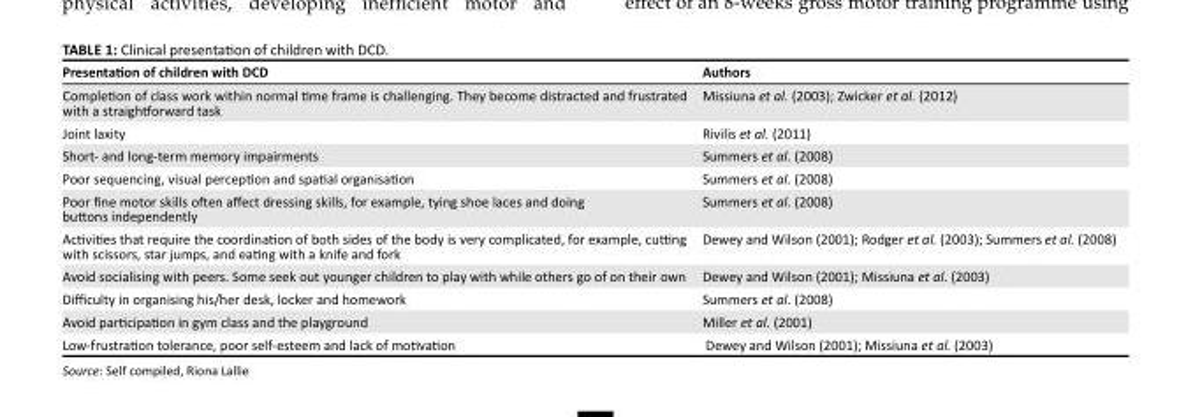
<table><thead><tr><td>Presentation of children with DCD</td><td>Authors</td></tr></thead><tbody><tr><td>Completion of class work within normal time frame is challenging. They become distracted and frustrated with a straightforward task</td><td>Missiuna et al. (2003); Zwicker et al. (2012)</td></tr><tr><td>Joint laxity</td><td>Rivilis et al. (2011)</td></tr><tr><td>Short- and long-term memory impairments</td><td>Summers et al. (2008)</td></tr><tr><td>Poor sequencing, visual perception and spatial organisation</td><td>Summers et al. (2008)</td></tr><tr><td>Poor fine motor skills often affect dressing skills, for example, tying shoe laces and doing buttons independently</td><td>Summers et al. (2008)</td></tr><tr><td>Activities that require the coordination of both sides of the body is very complicated, for example, cutting with scissors, star jumps, and eating with a knife and fork</td><td>Dewey and Wilson (2001); Rodger et al. (2003); Summers et al. (2008)</td></tr><tr><td>Avoid socialising with peers. Some seek out younger children to play with while others go of on their own</td><td>Dewey and Wilson (2001); Missiuna et al. (2003)</td></tr><tr><td>Difficulty in organising his/her desk, locker and homework</td><td>Summers et al. (2008)</td></tr><tr><td>Avoid participation in gym class and the playground</td><td>Miller et al. (2001)</td></tr><tr><td>Low-frustration tolerance, poor self-esteem and lack of motivation</td><td>Dewey and Wilson (2001); Missiuna et al. (2003)</td></tr></tbody></table>